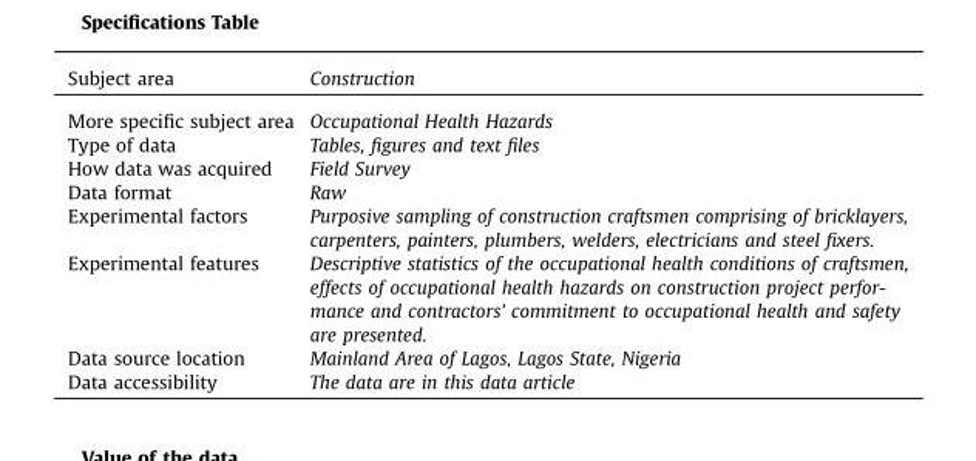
<table><thead><tr><td>Subject area</td><td>Construction</td></tr></thead><tbody><tr><td>More specific subject area</td><td>Occupational Health Hazards</td></tr><tr><td>Type of data</td><td>Tables, figures and text files</td></tr><tr><td>How data was acquired</td><td>Field Survey</td></tr><tr><td>Data format</td><td>Raw</td></tr><tr><td>Experimental factors</td><td>Purposive sampling of construction craftsmen comprising of bricklayers, carpenters, painters, plumbers, welders, electricians and steel fixers.</td></tr><tr><td>Experimental features</td><td>Descriptive statistics of the occupational health conditions of craftsmen, effects of occupational health hazards on construction project perfor- mance and contractors’ commitment to occupational health and safety are presented.</td></tr><tr><td>Data source location</td><td>Mainland Area of Lagos, Lagos State, Nigeria</td></tr><tr><td>Data accessibility</td><td>The data are in this data article</td></tr></tbody></table>